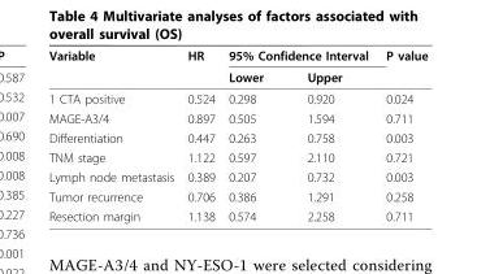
<table><thead><tr><td rowspan="2">Variable</td><td rowspan="2">HR</td><td colspan="2">95% Confidence Interval</td><td rowspan="2">P value</td></tr><tr><td>Lower</td><td>Upper</td></tr></thead><tbody><tr><td>1 CTA positive</td><td>0.524</td><td>0.298</td><td>0.920</td><td>0.024</td></tr><tr><td>MAGE-A3/4</td><td>0.897</td><td>0.505</td><td>1.594</td><td>0.711</td></tr><tr><td>Differentiation</td><td>0.447</td><td>0.263</td><td>0.758</td><td>0.003</td></tr><tr><td>TNM stage</td><td>1.122</td><td>0.597</td><td>2.110</td><td>0.721</td></tr><tr><td>Lymph node metastasis</td><td>0.389</td><td>0.207</td><td>0.732</td><td>0.003</td></tr><tr><td>Tumor recurrence</td><td>0.706</td><td>0.386</td><td>1.291</td><td>0.258</td></tr><tr><td>Resection margin</td><td>1.138</td><td>0.574</td><td>2.258</td><td>0.711</td></tr></tbody></table>